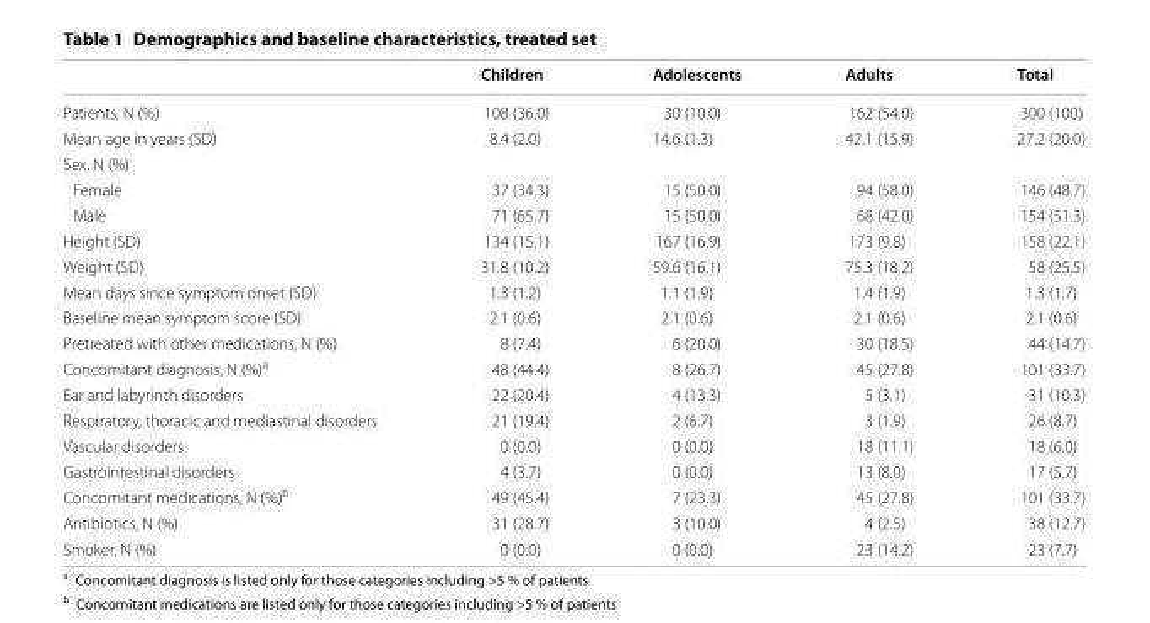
<table><thead><tr><td></td><td>Children</td><td>Adolescents</td><td>Adults</td><td>Total</td></tr></thead><tbody><tr><td>Patients, N (%)</td><td>108 (36.0)</td><td>30 (10.0)</td><td>162 (54.0)</td><td>300 (100)</td></tr><tr><td>Mean age in years (SD)</td><td>8.4 (2.0)</td><td>14.6 (1.3)</td><td>42.1 (15.9)</td><td>27.2 (20.0)</td></tr><tr><td colspan="5">Sex, N (%)</td></tr><tr><td>Female</td><td>37 (34.3)</td><td>15 (50.0)</td><td>94 (58.0)</td><td>146 (48.7)</td></tr><tr><td>Male</td><td>71 (65.7)</td><td>15 (50.0)</td><td>68 (42.0)</td><td>154 (51.3)</td></tr><tr><td>Height (SD)</td><td>134 (15.1)</td><td>167 (16.9)</td><td>173 (9.8)</td><td>158 (22.1)</td></tr><tr><td>Weight (SD)</td><td>31.8 (10.2)</td><td>59.6 (16.1)</td><td>75.3 (18.2)</td><td>58 (25.5)</td></tr><tr><td>Mean days since symptom onset (SD)</td><td>1.3 (1.2)</td><td>1.1 (1.9)</td><td>1.4 (1.9)</td><td>1.3 (1.7)</td></tr><tr><td>Baseline mean symptom score (SD)</td><td>2.1 (0.6)</td><td>2.1 (0.6)</td><td>2.1 (0.6)</td><td>2.1 (0.6)</td></tr><tr><td>Pretreated with other medications, N (%)</td><td>8 (7.4)</td><td>6 (20.0)</td><td>30 (18.5)</td><td>44 (14.7)</td></tr><tr><td>Concomitant diagnosis, N (%)<sup>a</sup></td><td>48 (44.4)</td><td>8 (26.7)</td><td>45 (27.8)</td><td>101 (33.7)</td></tr><tr><td>Ear and labyrinth disorders</td><td>22 (20.4)</td><td>4 (13.3)</td><td>5 (3.1)</td><td>31 (10.3)</td></tr><tr><td>Respiratory, thoracic and mediastinal disorders</td><td>21 (19.4)</td><td>2 (6.7)</td><td>3 (1.9)</td><td>26 (8.7)</td></tr><tr><td>Vascular disorders</td><td>0 (0.0)</td><td>0 (0.0)</td><td>18 (11.1)</td><td>18 (6.0)</td></tr><tr><td>Gastrointestinal disorders</td><td>4 (3.7)</td><td>0 (0.0)</td><td>13 (8.0)</td><td>17 (5.7)</td></tr><tr><td>Concomitant medications, N (%)<sup>b</sup></td><td>49 (45.4)</td><td>7 (23.3)</td><td>45 (27.8)</td><td>101 (33.7)</td></tr><tr><td>Antibiotics, N (%)</td><td>31 (28.7)</td><td>3 (10.0)</td><td>4 (2.5)</td><td>38 (12.7)</td></tr><tr><td>Smoker, N (%)</td><td>0 (0.0)</td><td>0 (0.0)</td><td>23 (14.2)</td><td>23 (7.7)</td></tr></tbody></table>